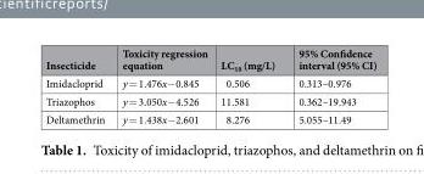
<table><thead><tr><td>Insecticide</td><td>Toxicity regression equation</td><td>LC<sub>10</sub> (mg/L)</td><td>95% Confidence interval (95% CI)</td></tr></thead><tbody><tr><td>Imidacloprid</td><td>y = 1.476x−0.845</td><td>0.506</td><td>0.313–0.976</td></tr><tr><td>Triazophos</td><td>y = 3.050x−4.526</td><td>11.581</td><td>0.362–19.943</td></tr><tr><td>Deltamethrin</td><td>y = 1.438x−2.601</td><td>8.276</td><td>5.055–11.49</td></tr></tbody></table>